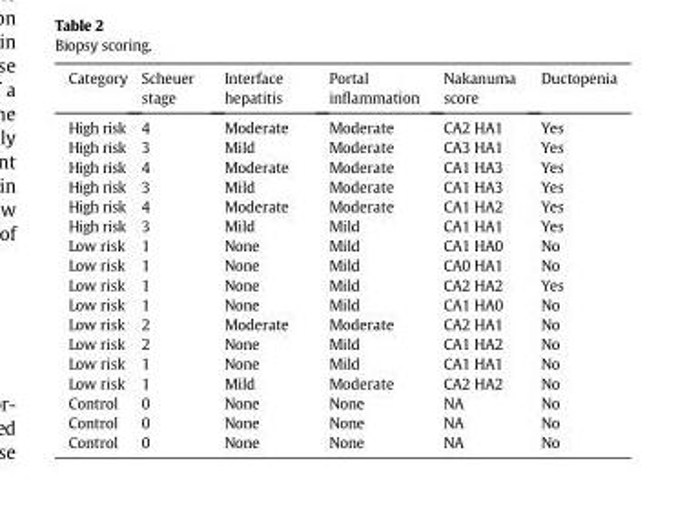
<table><thead><tr><td>Category</td><td>Scheuer stage</td><td>Interface hepatitis</td><td>Portal inflammation</td><td>Nakanuma score</td><td>Ductopenia</td></tr></thead><tbody><tr><td>High risk</td><td>4</td><td>Moderate</td><td>Moderate</td><td>CA2 HA1</td><td>Yes</td></tr><tr><td>High risk</td><td>3</td><td>Mild</td><td>Moderate</td><td>CA3 HA1</td><td>Yes</td></tr><tr><td>High risk</td><td>4</td><td>Moderate</td><td>Moderate</td><td>CA1 HA3</td><td>Yes</td></tr><tr><td>High risk</td><td>3</td><td>Mild</td><td>Moderate</td><td>CA1 HA3</td><td>Yes</td></tr><tr><td>High risk</td><td>4</td><td>Moderate</td><td>Moderate</td><td>CA1 HA2</td><td>Yes</td></tr><tr><td>High risk</td><td>3</td><td>Mild</td><td>Mild</td><td>CA1 HA1</td><td>Yes</td></tr><tr><td>Low risk</td><td>1</td><td>None</td><td>Mild</td><td>CA1 HA0</td><td>No</td></tr><tr><td>Low risk</td><td>1</td><td>None</td><td>Mild</td><td>CA0 HA1</td><td>No</td></tr><tr><td>Low risk</td><td>1</td><td>None</td><td>Mild</td><td>CA2 HA2</td><td>Yes</td></tr><tr><td>Low risk</td><td>1</td><td>None</td><td>Mild</td><td>CA1 HA0</td><td>No</td></tr><tr><td>Low risk</td><td>2</td><td>Moderate</td><td>Moderate</td><td>CA2 HA1</td><td>No</td></tr><tr><td>Low risk</td><td>2</td><td>None</td><td>Mild</td><td>CA1 HA2</td><td>No</td></tr><tr><td>Low risk</td><td>1</td><td>None</td><td>Mild</td><td>CA1 HA1</td><td>No</td></tr><tr><td>Low risk</td><td>1</td><td>Mild</td><td>Moderate</td><td>CA2 HA2</td><td>No</td></tr><tr><td>Control</td><td>0</td><td>None</td><td>None</td><td>NA</td><td>No</td></tr><tr><td>Control</td><td>0</td><td>None</td><td>None</td><td>NA</td><td>No</td></tr><tr><td>Control</td><td>0</td><td>None</td><td>None</td><td>NA</td><td>No</td></tr></tbody></table>